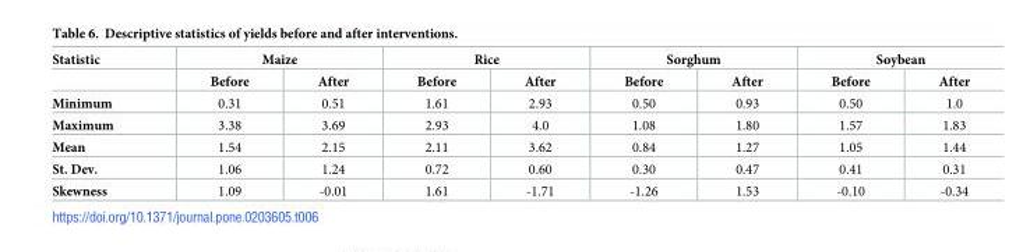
<table><thead><tr><td rowspan="2">Statistic</td><td colspan="2">Maize</td><td colspan="2">Rice</td><td colspan="2">Sorghum</td><td colspan="2">Soybean</td></tr><tr><td>Before</td><td>After</td><td>Before</td><td>After</td><td>Before</td><td>After</td><td>Before</td><td>After</td></tr></thead><tbody><tr><td>Minimum</td><td>0.31</td><td>0.51</td><td>1.61</td><td>2.93</td><td>0.50</td><td>0.93</td><td>0.50</td><td>1.0</td></tr><tr><td>Maximum</td><td>3.38</td><td>3.69</td><td>2.93</td><td>4.0</td><td>1.08</td><td>1.80</td><td>1.57</td><td>1.83</td></tr><tr><td>Mean</td><td>1.54</td><td>2.15</td><td>2.11</td><td>3.62</td><td>0.84</td><td>1.27</td><td>1.05</td><td>1.44</td></tr><tr><td>St. Dev.</td><td>1.06</td><td>1.24</td><td>0.72</td><td>0.60</td><td>0.30</td><td>0.47</td><td>0.41</td><td>0.31</td></tr><tr><td>Skewness</td><td>1.09</td><td>-0.01</td><td>1.61</td><td>-1.71</td><td>-1.26</td><td>1.53</td><td>-0.10</td><td>-0.34</td></tr></tbody></table>